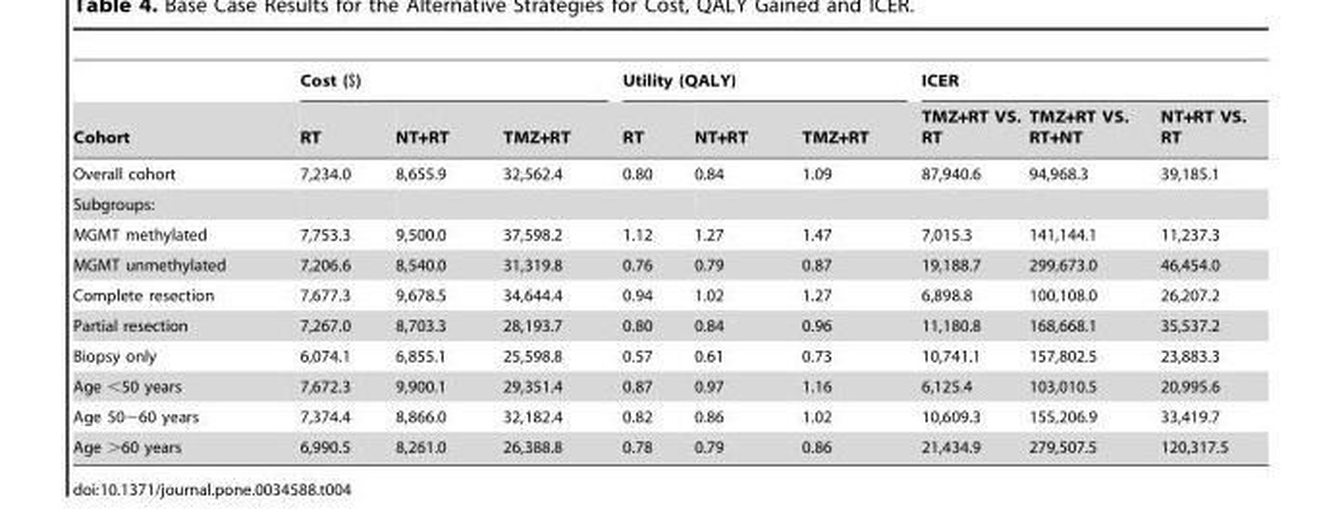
<table><thead><tr><td rowspan="2">Cohort</td><td colspan="3">Cost ($)</td><td colspan="3">Utility (QALY)</td><td colspan="3">ICER</td></tr><tr><td>RT</td><td>NT+RT</td><td>TMZ+RT</td><td>RT</td><td>NT+RT</td><td>TMZ+RT</td><td>TMZ+RT VS. RT</td><td>TMZ+RT VS. RT+NT</td><td>NT+RT VS. RT</td></tr></thead><tbody><tr><td>Overall cohort</td><td>7,234.0</td><td>8,655.9</td><td>32,562.4</td><td>0.80</td><td>0.84</td><td>1.09</td><td>87,940.6</td><td>94,968.3</td><td>39,185.1</td></tr><tr><td colspan="10">Subgroups:</td></tr><tr><td>MGMT methylated</td><td>7,753.3</td><td>9,500.0</td><td>37,598.2</td><td>1.12</td><td>1.27</td><td>1.47</td><td>7,015.3</td><td>141,144.1</td><td>11,237.3</td></tr><tr><td>MGMT unmethylated</td><td>7,206.6</td><td>8,540.0</td><td>31,319.8</td><td>0.76</td><td>0.79</td><td>0.87</td><td>19,188.7</td><td>299,673.0</td><td>46,454.0</td></tr><tr><td>Complete resection</td><td>7,677.3</td><td>9,678.5</td><td>34,644.4</td><td>0.94</td><td>1.02</td><td>1.27</td><td>6,898.8</td><td>100,108.0</td><td>26,207.2</td></tr><tr><td>Partial resection</td><td>7,267.0</td><td>8,703.3</td><td>28,193.7</td><td>0.80</td><td>0.84</td><td>0.96</td><td>11,180.8</td><td>168,668.1</td><td>35,537.2</td></tr><tr><td>Biopsy only</td><td>6,074.1</td><td>6,855.1</td><td>25,598.8</td><td>0.57</td><td>0.61</td><td>0.73</td><td>10,741.1</td><td>157,802.5</td><td>23,883.3</td></tr><tr><td>Age &lt;50 years</td><td>7,672.3</td><td>9,900.1</td><td>29,351.4</td><td>0.87</td><td>0.97</td><td>1.16</td><td>6,125.4</td><td>103,010.5</td><td>20,995.6</td></tr><tr><td>Age 50∼60 years</td><td>7,374.4</td><td>8,866.0</td><td>32,182.4</td><td>0.82</td><td>0.86</td><td>1.02</td><td>10,609.3</td><td>155,206.9</td><td>33,419.7</td></tr><tr><td>Age &gt;60 years</td><td>6,990.5</td><td>8,261.0</td><td>26,388.8</td><td>0.78</td><td>0.79</td><td>0.86</td><td>21,434.9</td><td>279,507.5</td><td>120,317.5</td></tr></tbody></table>